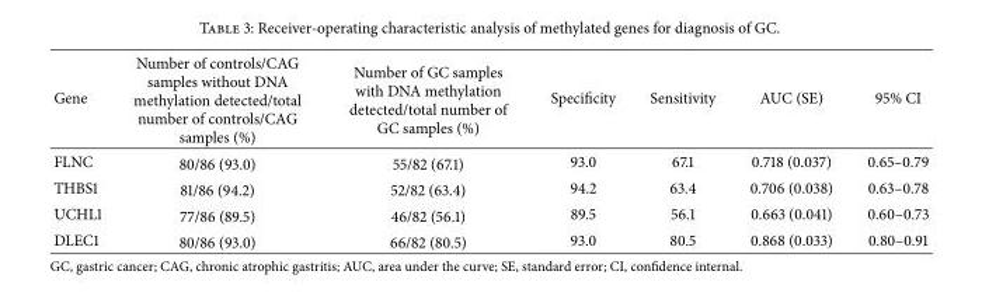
<table><thead><tr><td>Gene</td><td>Number of controls/CAG samples without DNA methylation detected/total number of controls/CAG samples (%)</td><td>Number of GC samples with DNA methylation detected/total number of GC samples (%)</td><td>Specificity</td><td>Sensitivity</td><td>AUC (SE)</td><td>95% CI</td></tr></thead><tbody><tr><td>FLNC</td><td>80/86 (93.0)</td><td>55/82 (67.1)</td><td>93.0</td><td>67.1</td><td>0.718 (0.037)</td><td>0.65–0.79</td></tr><tr><td>THBS1</td><td>81/86 (94.2)</td><td>52/82 (63.4)</td><td>94.2</td><td>63.4</td><td>0.706 (0.038)</td><td>0.63–0.78</td></tr><tr><td>UCHL1</td><td>77/86 (89.5)</td><td>46/82 (56.1)</td><td>89.5</td><td>56.1</td><td>0.663 (0.041)</td><td>0.60–0.73</td></tr><tr><td>DLEC1</td><td>80/86 (93.0)</td><td>66/82 (80.5)</td><td>93.0</td><td>80.5</td><td>0.868 (0.033)</td><td>0.80–0.91</td></tr></tbody></table>